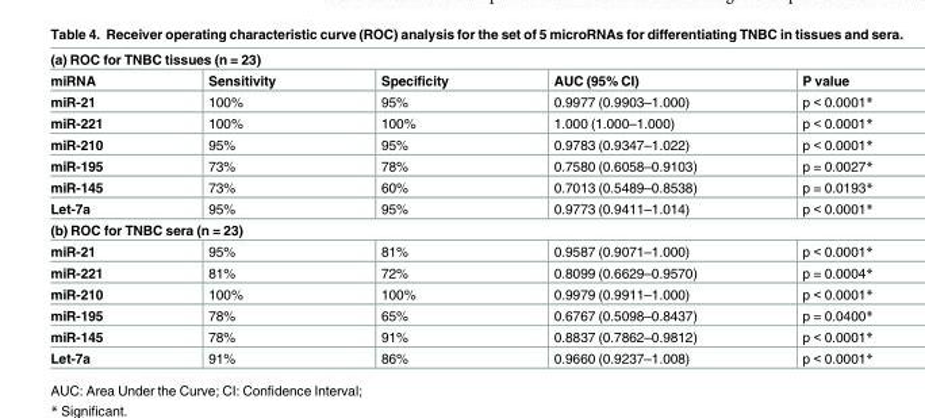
<table><tbody><tr><td colspan="5">(a) ROC for TNBC tissues (n = 23)</td></tr><tr><td>miRNA</td><td>Sensitivity</td><td>Specificity</td><td>AUC (95% CI)</td><td>P value</td></tr><tr><td>miR-21</td><td>100%</td><td>95%</td><td>0.9977 (0.9903–1.000)</td><td>p &lt; 0.0001*</td></tr><tr><td>miR-221</td><td>100%</td><td>100%</td><td>1.000 (1.000–1.000)</td><td>p &lt; 0.0001*</td></tr><tr><td>miR-210</td><td>95%</td><td>95%</td><td>0.9783 (0.9347–1.022)</td><td>p &lt; 0.0001*</td></tr><tr><td>miR-195</td><td>73%</td><td>78%</td><td>0.7580 (0.6058–0.9103)</td><td>p = 0.0027*</td></tr><tr><td>miR-145</td><td>73%</td><td>60%</td><td>0.7013 (0.5489–0.8538)</td><td>p = 0.0193*</td></tr><tr><td>Let-7a</td><td>95%</td><td>95%</td><td>0.9773 (0.9411–1.014)</td><td>p &lt; 0.0001*</td></tr><tr><td colspan="5">(b) ROC for TNBC sera (n = 23)</td></tr><tr><td>miR-21</td><td>95%</td><td>81%</td><td>0.9587 (0.9071–1.000)</td><td>p &lt; 0.0001*</td></tr><tr><td>miR-221</td><td>81%</td><td>72%</td><td>0.8099 (0.6629–0.9570)</td><td>p = 0.0004*</td></tr><tr><td>miR-210</td><td>100%</td><td>100%</td><td>0.9979 (0.9911–1.000)</td><td>p &lt; 0.0001*</td></tr><tr><td>miR-195</td><td>78%</td><td>65%</td><td>0.6767 (0.5098–0.8437)</td><td>p = 0.0400*</td></tr><tr><td>miR-145</td><td>78%</td><td>91%</td><td>0.8837 (0.7862–0.9812)</td><td>p &lt; 0.0001*</td></tr><tr><td>Let-7a</td><td>91%</td><td>86%</td><td>0.9660 (0.9237–1.008)</td><td>p &lt; 0.0001*</td></tr></tbody></table>